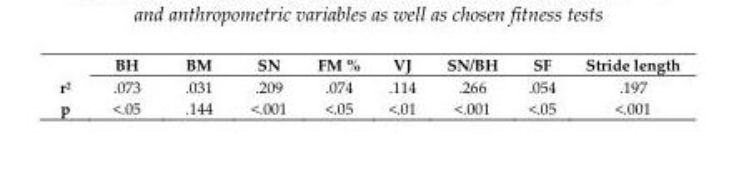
<table><thead><tr><td></td><td>BH</td><td>BM</td><td>SN</td><td>FM %</td><td>VJ</td><td>SN/BH</td><td>SF</td><td>Stride length</td></tr></thead><tbody><tr><td>r<sup>2</sup></td><td>.073</td><td>.031</td><td>.209</td><td>.074</td><td>.114</td><td>.266</td><td>.054</td><td>.197</td></tr><tr><td>p</td><td>&lt;.05</td><td>.144</td><td>&lt;.001</td><td>&lt;.05</td><td>&lt;.01</td><td>&lt;.001</td><td>&lt;.05</td><td>&lt;.001</td></tr></tbody></table>